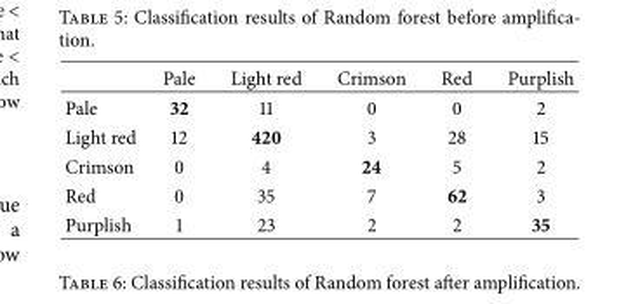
<table><thead><tr><td></td><td>Pale</td><td>Light red</td><td>Crimson</td><td>Red</td><td>Purplish</td></tr></thead><tbody><tr><td>Pale</td><td>32</td><td>11</td><td>0</td><td>0</td><td>2</td></tr><tr><td>Light red</td><td>12</td><td>420</td><td>3</td><td>28</td><td>15</td></tr><tr><td>Crimson</td><td>0</td><td>4</td><td>24</td><td>5</td><td>2</td></tr><tr><td>Red</td><td>0</td><td>35</td><td>7</td><td>62</td><td>3</td></tr><tr><td>Purplish</td><td>1</td><td>23</td><td>2</td><td>2</td><td>35</td></tr></tbody></table>